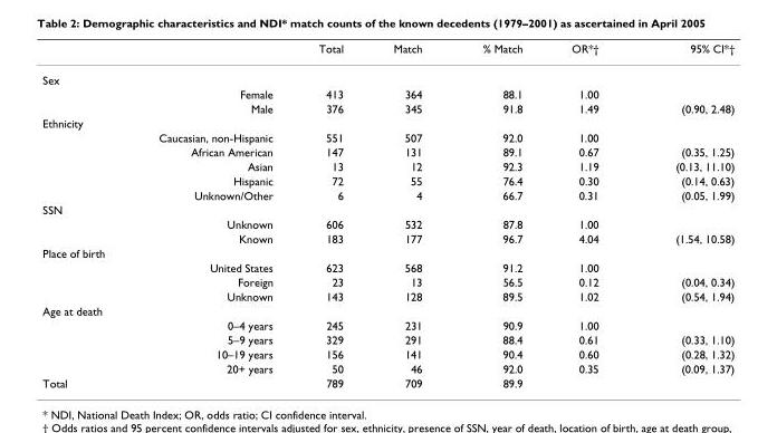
<table><thead><tr><td></td><td>Total</td><td>Match</td><td>% Match</td><td>OR*†</td><td>95% CI*†</td></tr></thead><tbody><tr><td colspan="6">Sex</td></tr><tr><td>Female</td><td>413</td><td>364</td><td>88.1</td><td>1.00</td><td></td></tr><tr><td>Male</td><td>376</td><td>345</td><td>91.8</td><td>1.49</td><td>(0.90, 2.48)</td></tr><tr><td colspan="6">Ethnicity</td></tr><tr><td>Caucasian, non-Hispanic</td><td>551</td><td>507</td><td>92.0</td><td>1.00</td><td></td></tr><tr><td>African American</td><td>147</td><td>131</td><td>89.1</td><td>0.67</td><td>(0.35, 1.25)</td></tr><tr><td>Asian</td><td>13</td><td>12</td><td>92.3</td><td>1.19</td><td>(0.13, 11.10)</td></tr><tr><td>Hispanic</td><td>72</td><td>55</td><td>76.4</td><td>0.30</td><td>(0.14, 0.63)</td></tr><tr><td>Unknown/Other</td><td>6</td><td>4</td><td>66.7</td><td>0.31</td><td>(0.05, 1.99)</td></tr><tr><td colspan="6">SSN</td></tr><tr><td>Unknown</td><td>606</td><td>532</td><td>87.8</td><td>1.00</td><td></td></tr><tr><td>Known</td><td>183</td><td>177</td><td>96.7</td><td>4.04</td><td>(1.54, 10.58)</td></tr><tr><td colspan="6">Place of birth</td></tr><tr><td>United States</td><td>623</td><td>568</td><td>91.2</td><td>1.00</td><td></td></tr><tr><td>Foreign</td><td>23</td><td>13</td><td>56.5</td><td>0.12</td><td>(0.04, 0.34)</td></tr><tr><td>Unknown</td><td>143</td><td>128</td><td>89.5</td><td>1.02</td><td>(0.54, 1.94)</td></tr><tr><td colspan="6">Age at death</td></tr><tr><td>0–4 years</td><td>245</td><td>231</td><td>90.9</td><td>1.00</td><td></td></tr><tr><td>5–9 years</td><td>329</td><td>291</td><td>88.4</td><td>0.61</td><td>(0.33, 1.10)</td></tr><tr><td>10–19 years</td><td>156</td><td>141</td><td>90.4</td><td>0.60</td><td>(0.28, 1.32)</td></tr><tr><td>20+ years</td><td>50</td><td>46</td><td>92.0</td><td>0.35</td><td>(0.09, 1.37)</td></tr><tr><td>Total</td><td>789</td><td>709</td><td>89.9</td><td></td><td></td></tr></tbody></table>